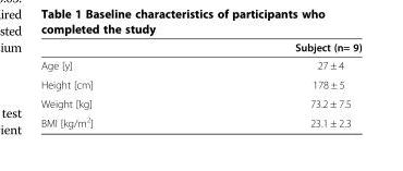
<table><thead><tr><td></td><td>Subject (n= 9)</td></tr></thead><tbody><tr><td>Age [y]</td><td>27 ± 4</td></tr><tr><td>Height [cm]</td><td>178 ± 5</td></tr><tr><td>Weight [kg]</td><td>73.2 ± 7.5</td></tr><tr><td>BMI [kg/m<sup>2</sup>]</td><td>23.1 ± 2.3</td></tr></tbody></table>